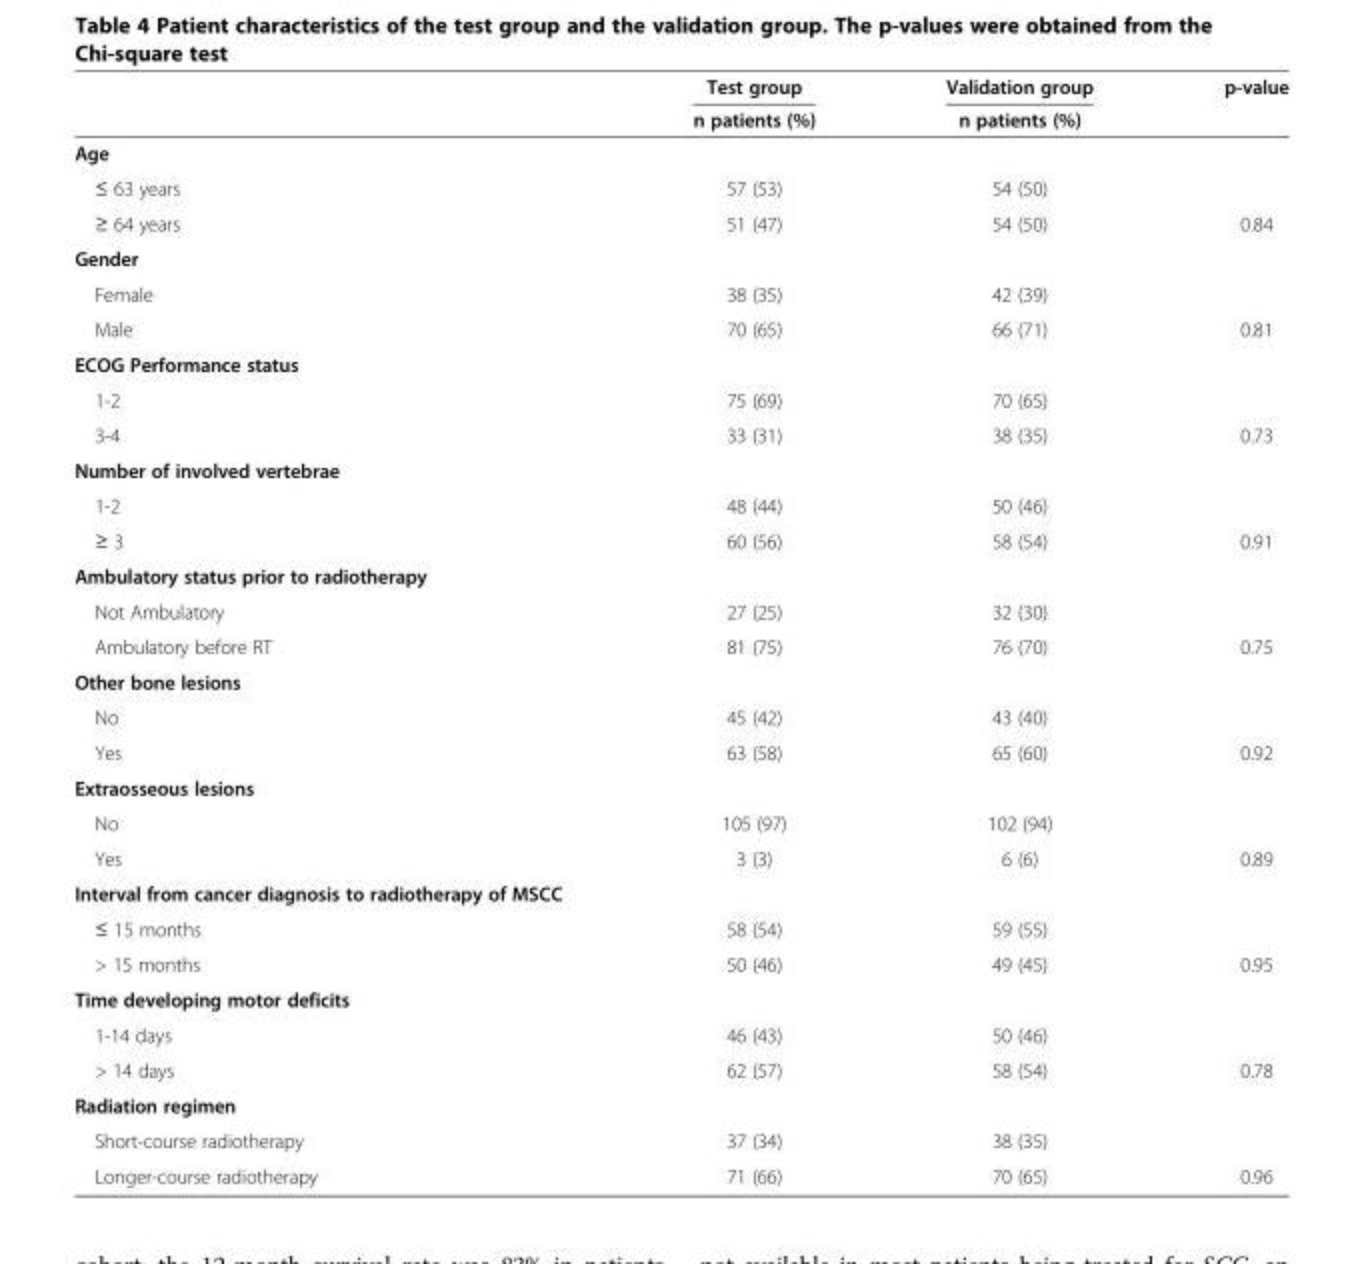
<table><thead><tr><td rowspan="2"></td><td rowspan="2">Test group n patients (%)</td><td rowspan="2">Validation group n patients (%)</td><td rowspan="2">p-value</td></tr><tr></tr></thead><tbody><tr><td colspan="4">Age</td></tr><tr><td>≤ 63 years</td><td>57 (53)</td><td>54 (50)</td><td></td></tr><tr><td>≥ 64 years</td><td>51 (47)</td><td>54 (50)</td><td>0.84</td></tr><tr><td colspan="4">Gender</td></tr><tr><td>Female</td><td>38 (35)</td><td>42 (39)</td><td></td></tr><tr><td>Male</td><td>70 (65)</td><td>66 (71)</td><td>0.81</td></tr><tr><td colspan="4">ECOG Performance status</td></tr><tr><td>1-2</td><td>75 (69)</td><td>70 (65)</td><td></td></tr><tr><td>3-4</td><td>33 (31)</td><td>38 (35)</td><td>0.73</td></tr><tr><td colspan="4">Number of involved vertebrae</td></tr><tr><td>1-2</td><td>48 (44)</td><td>50 (46)</td><td></td></tr><tr><td>≥ 3</td><td>60 (56)</td><td>58 (54)</td><td>0.91</td></tr><tr><td colspan="4">Ambulatory status prior to radiotherapy</td></tr><tr><td>Not Ambulatory</td><td>27 (25)</td><td>32 (30)</td><td></td></tr><tr><td>Ambulatory before RT</td><td>81 (75)</td><td>76 (70)</td><td>0.75</td></tr><tr><td colspan="4">Other bone lesions</td></tr><tr><td>No</td><td>45 (42)</td><td>43 (40)</td><td></td></tr><tr><td>Yes</td><td>63 (58)</td><td>65 (60)</td><td>0.92</td></tr><tr><td colspan="4">Extraosseous lesions</td></tr><tr><td>No</td><td>105 (97)</td><td>102 (94)</td><td></td></tr><tr><td>Yes</td><td>3 (3)</td><td>6 (6)</td><td>0.89</td></tr><tr><td colspan="4">Interval from cancer diagnosis to radiotherapy of MSCC</td></tr><tr><td>≤ 15 months</td><td>58 (54)</td><td>59 (55)</td><td></td></tr><tr><td>&gt; 15 months</td><td>50 (46)</td><td>49 (45)</td><td>0.95</td></tr><tr><td colspan="4">Time developing motor deficits</td></tr><tr><td>1-14 days</td><td>46 (43)</td><td>50 (46)</td><td></td></tr><tr><td>&gt; 14 days</td><td>62 (57)</td><td>58 (54)</td><td>0.78</td></tr><tr><td colspan="4">Radiation regimen</td></tr><tr><td>Short-course radiotherapy</td><td>37 (34)</td><td>38 (35)</td><td></td></tr><tr><td>Longer-course radiotherapy</td><td>71 (66)</td><td>70 (65)</td><td>0.96</td></tr></tbody></table>